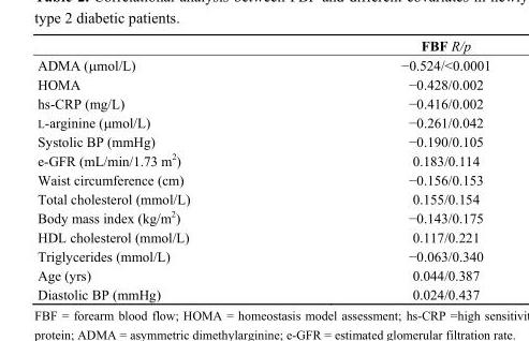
<table><thead><tr><td></td><td>FBF R/p</td></tr></thead><tbody><tr><td>ADMA (μmol/L)</td><td>−0.524/&lt;0.0001</td></tr><tr><td>HOMA</td><td>−0.428/0.002</td></tr><tr><td>hs-CRP (mg/L)</td><td>−0.416/0.002</td></tr><tr><td>L-arginine (μmol/L)</td><td>−0.261/0.042</td></tr><tr><td>Systolic BP (mmHg)</td><td>−0.190/0.105</td></tr><tr><td>e-GFR (mL/min/1.73 m<sup>2</sup>)</td><td>0.183/0.114</td></tr><tr><td>Waist circumference (cm)</td><td>−0.156/0.153</td></tr><tr><td>Total cholesterol (mmol/L)</td><td>0.155/0.154</td></tr><tr><td>Body mass index (kg/m<sup>2</sup>)</td><td>−0.143/0.175</td></tr><tr><td>HDL cholesterol (mmol/L)</td><td>0.117/0.221</td></tr><tr><td>Triglycerides (mmol/L)</td><td>−0.063/0.340</td></tr><tr><td>Age (yrs)</td><td>0.044/0.387</td></tr><tr><td>Diastolic BP (mmHg)</td><td>0.024/0.437</td></tr></tbody></table>